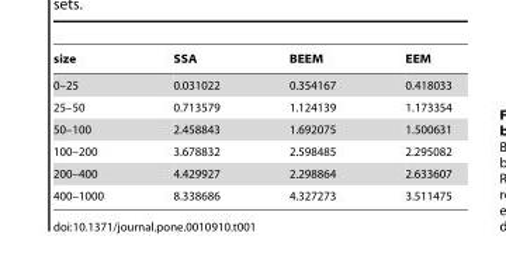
<table><thead><tr><td>size</td><td>SSA</td><td>BEEM</td><td>EEM</td></tr></thead><tbody><tr><td>0–25</td><td>0.031022</td><td>0.354167</td><td>0.418033</td></tr><tr><td>25–50</td><td>0.713579</td><td>1.124139</td><td>1.173354</td></tr><tr><td>50–100</td><td>2.458843</td><td>1.692075</td><td>1.500631</td></tr><tr><td>100–200</td><td>3.678832</td><td>2.598485</td><td>2.295082</td></tr><tr><td>200–400</td><td>4.429927</td><td>2.298864</td><td>2.633607</td></tr><tr><td>400–1000</td><td>8.338686</td><td>4.327273</td><td>3.511475</td></tr></tbody></table>